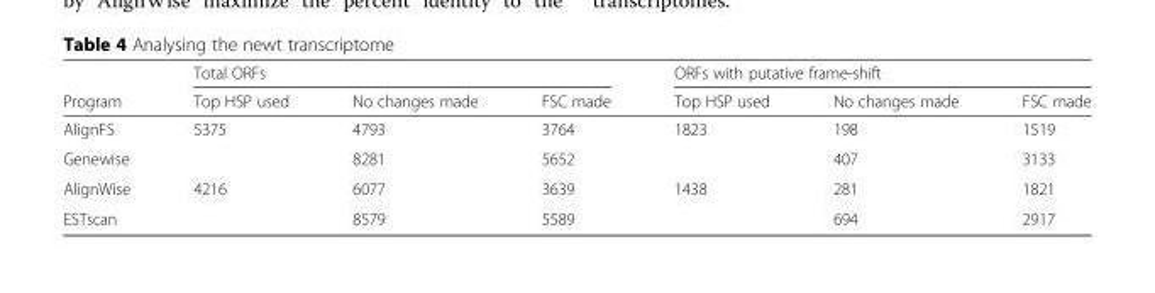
<table><thead><tr><td rowspan="2">Program</td><td colspan="3">Total ORFs</td><td colspan="3">ORFs with putative frame-shift</td></tr><tr><td>Top HSP used</td><td>No changes made</td><td>FSC made</td><td>Top HSP used</td><td>No changes made</td><td>FSC made</td></tr></thead><tbody><tr><td>AlignFS</td><td>5375</td><td>4793</td><td>3764</td><td>1823</td><td>198</td><td>1519</td></tr><tr><td>Genewise</td><td></td><td>8281</td><td>5652</td><td></td><td>407</td><td>3133</td></tr><tr><td>AlignWise</td><td>4216</td><td>6077</td><td>3639</td><td>1438</td><td>281</td><td>1821</td></tr><tr><td>ESTscan</td><td></td><td>8579</td><td>5589</td><td></td><td>694</td><td>2917</td></tr></tbody></table>